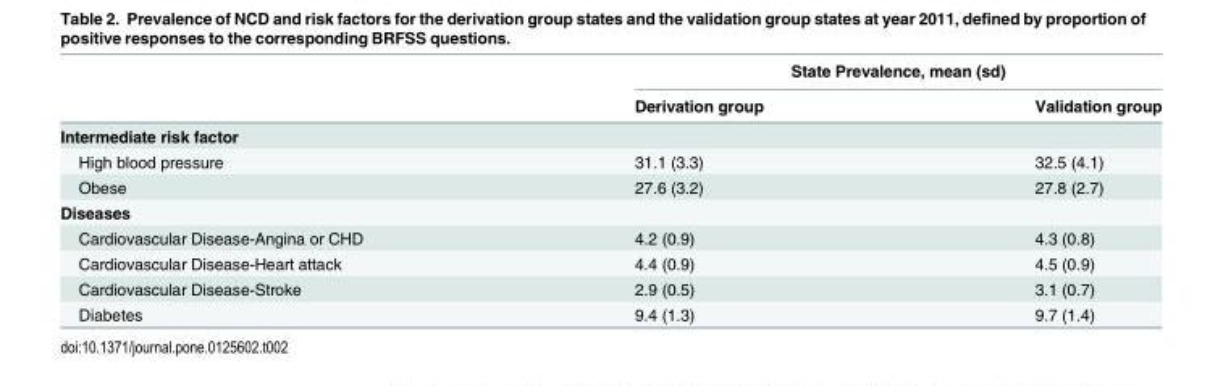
<table><thead><tr><td rowspan="2"></td><td colspan="2">State Prevalence, mean (sd)</td></tr><tr><td>Derivation group</td><td>Validation group</td></tr></thead><tbody><tr><td colspan="3">Intermediate risk factor</td></tr><tr><td>High blood pressure</td><td>31.1 (3.3)</td><td>32.5 (4.1)</td></tr><tr><td>Obese</td><td>27.6 (3.2)</td><td>27.8 (2.7)</td></tr><tr><td colspan="3">Diseases</td></tr><tr><td>Cardiovascular Disease-Angina or CHD</td><td>4.2 (0.9)</td><td>4.3 (0.8)</td></tr><tr><td>Cardiovascular Disease-Heart attack</td><td>4.4 (0.9)</td><td>4.5 (0.9)</td></tr><tr><td>Cardiovascular Disease-Stroke</td><td>2.9 (0.5)</td><td>3.1 (0.7)</td></tr><tr><td>Diabetes</td><td>9.4 (1.3)</td><td>9.7 (1.4)</td></tr></tbody></table>